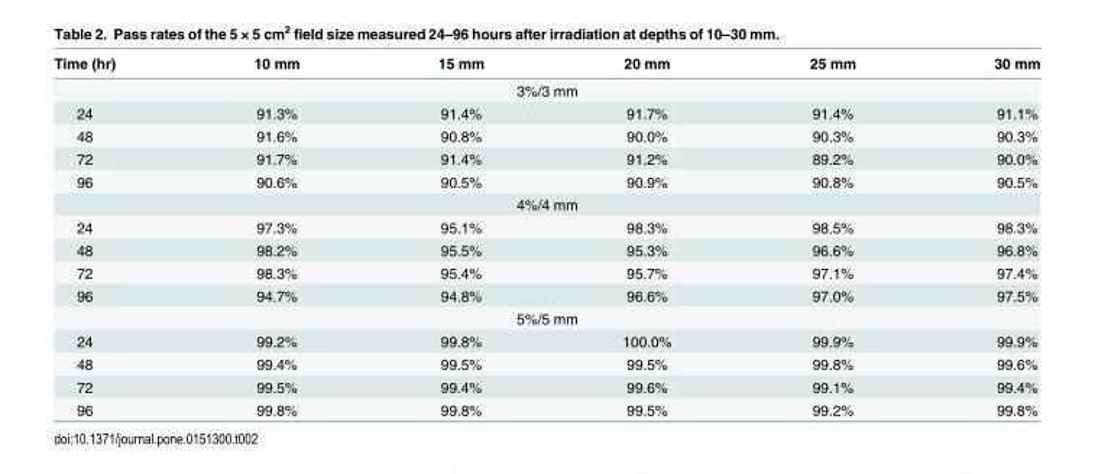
<table><thead><tr><td>Time (hr)</td><td>10 mm</td><td>15 mm</td><td>20 mm</td><td>25 mm</td><td>30 mm</td></tr></thead><tbody><tr><td colspan="6">3%/3 mm</td></tr><tr><td>24</td><td>91.3%</td><td>91.4%</td><td>91.7%</td><td>91.4%</td><td>91.1%</td></tr><tr><td>48</td><td>91.6%</td><td>90.8%</td><td>90.0%</td><td>90.3%</td><td>90.3%</td></tr><tr><td>72</td><td>91.7%</td><td>91.4%</td><td>91.2%</td><td>89.2%</td><td>90.0%</td></tr><tr><td>96</td><td>90.6%</td><td>90.5%</td><td>90.9%</td><td>90.8%</td><td>90.5%</td></tr><tr><td colspan="6">4%/4 mm</td></tr><tr><td>24</td><td>97.3%</td><td>95.1%</td><td>98.3%</td><td>98.5%</td><td>98.3%</td></tr><tr><td>48</td><td>98.2%</td><td>95.5%</td><td>95.3%</td><td>96.6%</td><td>96.8%</td></tr><tr><td>72</td><td>98.3%</td><td>95.4%</td><td>95.7%</td><td>97.1%</td><td>97.4%</td></tr><tr><td>96</td><td>94.7%</td><td>94.8%</td><td>96.6%</td><td>97.0%</td><td>97.5%</td></tr><tr><td colspan="6">5%/5 mm</td></tr><tr><td>24</td><td>99.2%</td><td>99.8%</td><td>100.0%</td><td>99.9%</td><td>99.9%</td></tr><tr><td>48</td><td>99.4%</td><td>99.5%</td><td>99.5%</td><td>99.8%</td><td>99.6%</td></tr><tr><td>72</td><td>99.5%</td><td>99.4%</td><td>99.6%</td><td>99.1%</td><td>99.4%</td></tr><tr><td>96</td><td>99.8%</td><td>99.8%</td><td>99.5%</td><td>99.2%</td><td>99.8%</td></tr></tbody></table>